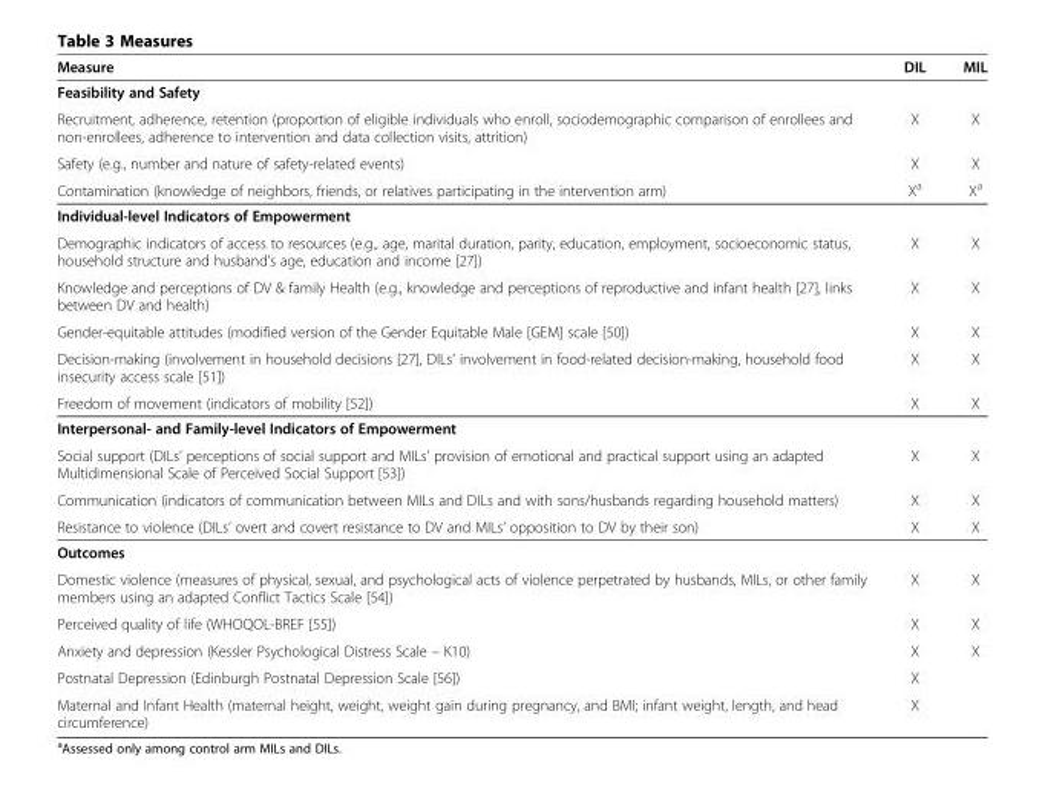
<table><thead><tr><td>Measure</td><td>DIL</td><td>MIL</td></tr></thead><tbody><tr><td colspan="3">Feasibility and Safety</td></tr><tr><td>Recruitment, adherence, retention (proportion of eligible individuals who enroll, sociodemographic comparison of enrollees and non-enrollees, adherence to intervention and data collection visits, attrition)</td><td>X</td><td>X</td></tr><tr><td>Safety (e.g., number and nature of safety-related events)</td><td>X</td><td>X</td></tr><tr><td>Contamination (knowledge of neighbors, friends, or relatives participating in the intervention arm)</td><td>X<sup>a</sup></td><td>X<sup>a</sup></td></tr><tr><td colspan="3">Individual-level Indicators of Empowerment</td></tr><tr><td>Demographic indicators of access to resources (e.g., age, marital duration, parity, education, employment, socioeconomic status, household structure and husband’s age, education and income [27])</td><td>X</td><td>X</td></tr><tr><td>Knowledge and perceptions of DV &amp; family Health (e.g., knowledge and perceptions of reproductive and infant health [27], links between DV and health)</td><td>X</td><td>X</td></tr><tr><td>Gender-equitable attitudes (modified version of the Gender Equitable Male [GEM] scale [50])</td><td>X</td><td>X</td></tr><tr><td>Decision-making (involvement in household decisions [27], DILs’ involvement in food-related decision-making, household food insecurity access scale [51])</td><td>X</td><td>X</td></tr><tr><td>Freedom of movement (indicators of mobility [52])</td><td>X</td><td>X</td></tr><tr><td colspan="3">Interpersonal- and Family-level Indicators of Empowerment</td></tr><tr><td>Social support (DILs’ perceptions of social support and MILs’ provision of emotional and practical support using an adapted Multidimensional Scale of Perceived Social Support [53])</td><td>X</td><td>X</td></tr><tr><td>Communication (indicators of communication between MILs and DILs and with sons/husbands regarding household matters)</td><td>X</td><td>X</td></tr><tr><td>Resistance to violence (DILs’ overt and covert resistance to DV and MILs’ opposition to DV by their son)</td><td>X</td><td>X</td></tr><tr><td colspan="3">Outcomes</td></tr><tr><td>Domestic violence (measures of physical, sexual, and psychological acts of violence perpetrated by husbands, MILs, or other family members using an adapted Conflict Tactics Scale [54])</td><td>X</td><td>X</td></tr><tr><td>Perceived quality of life (WHOQOL-BREF [55])</td><td>X</td><td>X</td></tr><tr><td>Anxiety and depression (Kessler Psychological Distress Scale – K10)</td><td>X</td><td>X</td></tr><tr><td>Postnatal Depression (Edinburgh Postnatal Depression Scale [56])</td><td>X</td><td></td></tr><tr><td>Maternal and Infant Health (maternal height, weight, weight gain during pregnancy, and BMI; infant weight, length, and head circumference)</td><td>X</td><td></td></tr></tbody></table>